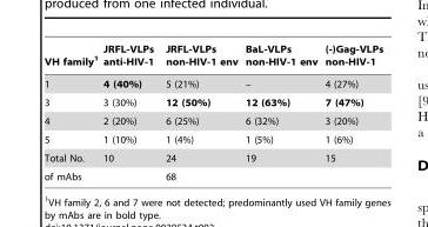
<table><thead><tr><td>VH family<sup>1</sup></td><td>JRFL-VLPs anti-HIV-1</td><td>JRFL-VLPs non-HIV-1 env</td><td>BaL-VLPs non-HIV-1 env</td><td>(-)Gag-VLPs non-HIV-1</td></tr></thead><tbody><tr><td>1</td><td>4 (40%)</td><td>5 (21%)</td><td>–</td><td>4 (27%)</td></tr><tr><td>3</td><td>3 (30%)</td><td>12 (50%)</td><td>12 (63%)</td><td>7 (47%)</td></tr><tr><td>4</td><td>2 (20%)</td><td>6 (25%)</td><td>6 (32%)</td><td>3 (20%)</td></tr><tr><td>5</td><td>1 (10%)</td><td>1 (4%)</td><td>1 (5%)</td><td>1 (6%)</td></tr><tr><td>Total No.</td><td>10</td><td>24</td><td>19</td><td>15</td></tr><tr><td>of mAbs</td><td></td><td>68</td><td></td><td></td></tr></tbody></table>